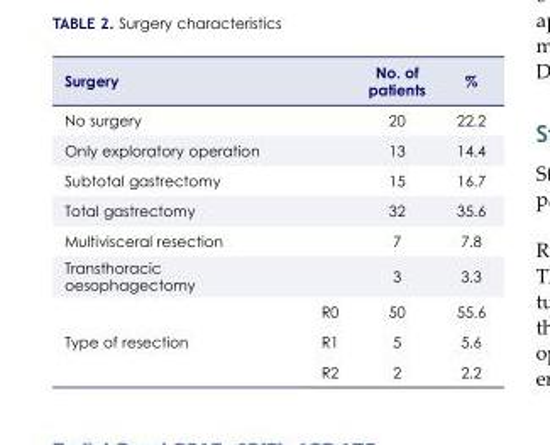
<table><thead><tr><td>Surgery</td><td></td><td>No. of patients</td><td>%</td></tr></thead><tbody><tr><td>No surgery</td><td></td><td>20</td><td>22.2</td></tr><tr><td>Only exploratory operation</td><td></td><td>13</td><td>14.4</td></tr><tr><td>Subtotal gastrectomy</td><td></td><td>15</td><td>16.7</td></tr><tr><td>Total gastrectomy</td><td></td><td>32</td><td>35.6</td></tr><tr><td>Multivisceral resection</td><td></td><td>7</td><td>7.8</td></tr><tr><td>Transthoracic oesophagectomy</td><td></td><td>3</td><td>3.3</td></tr><tr><td rowspan="3">Type of resection</td><td>R0</td><td>50</td><td>55.6</td></tr><tr><td>R1</td><td>5</td><td>5.6</td></tr><tr><td>R2</td><td>2</td><td>2.2</td></tr></tbody></table>